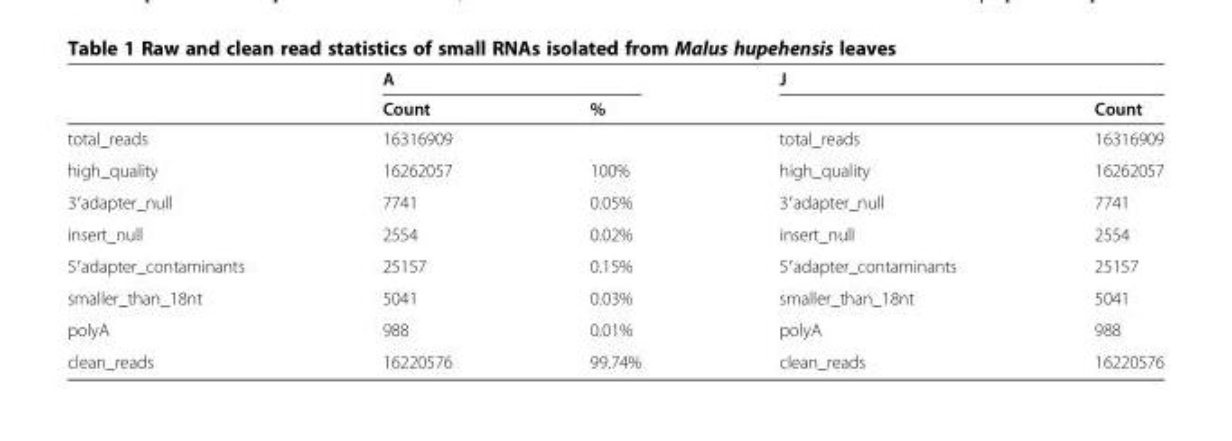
<table><thead><tr><td rowspan="2"></td><td colspan="2">A</td><td colspan="2">J</td></tr><tr><td>Count</td><td>%</td><td></td><td>Count</td></tr></thead><tbody><tr><td>total_reads</td><td>16316909</td><td></td><td>total_reads</td><td>16316909</td></tr><tr><td>high_quality</td><td>16262057</td><td>100%</td><td>high_quality</td><td>16262057</td></tr><tr><td>3′adapter_null</td><td>7741</td><td>0.05%</td><td>3′adapter_null</td><td>7741</td></tr><tr><td>insert_null</td><td>2554</td><td>0.02%</td><td>insert_null</td><td>2554</td></tr><tr><td>5′adapter_contaminants</td><td>25157</td><td>0.15%</td><td>5′adapter_contaminants</td><td>25157</td></tr><tr><td>smaller_than_18nt</td><td>5041</td><td>0.03%</td><td>smaller_than_18nt</td><td>5041</td></tr><tr><td>polyA</td><td>988</td><td>0.01%</td><td>polyA</td><td>988</td></tr><tr><td>clean_reads</td><td>16220576</td><td>99.74%</td><td>clean_reads</td><td>16220576</td></tr></tbody></table>